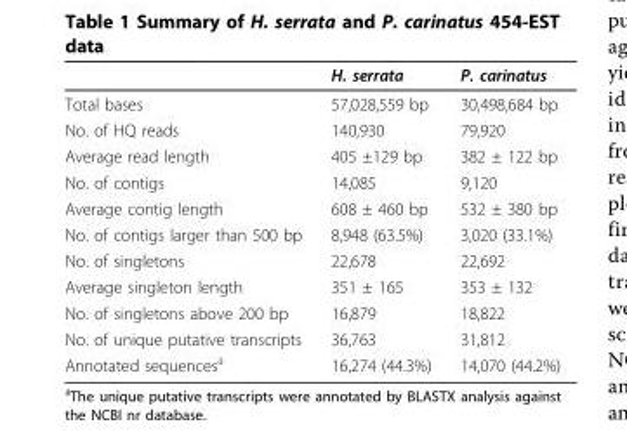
<table><thead><tr><td></td><td>H. serrata</td><td>P. carinatus</td></tr></thead><tbody><tr><td>Total bases</td><td>57,028,559 bp</td><td>30,498,684 bp</td></tr><tr><td>No. of HQ reads</td><td>140,930</td><td>79,920</td></tr><tr><td>Average read length</td><td>405 ±129 bp</td><td>382 ± 122 bp</td></tr><tr><td>No. of contigs</td><td>14,085</td><td>9,120</td></tr><tr><td>Average contig length</td><td>608 ± 460 bp</td><td>532 ± 380 bp</td></tr><tr><td>No. of contigs larger than 500 bp</td><td>8,948 (63.5%)</td><td>3,020 (33.1%)</td></tr><tr><td>No. of singletons</td><td>22,678</td><td>22,692</td></tr><tr><td>Average singleton length</td><td>351 ± 165</td><td>353 ± 132</td></tr><tr><td>No. of singletons above 200 bp</td><td>16,879</td><td>18,822</td></tr><tr><td>No. of unique putative transcripts</td><td>36,763</td><td>31,812</td></tr><tr><td>Annotated sequences<sup>a</sup></td><td>16,274 (44.3%)</td><td>14,070 (44.2%)</td></tr></tbody></table>